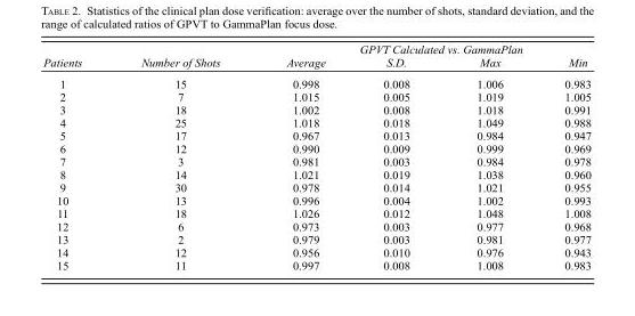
<table><thead><tr><td rowspan="2">Patients</td><td rowspan="2">Number of Shots</td><td rowspan="2">Average</td><td colspan="2">GPVT Calculated vs. GammaPlan</td><td rowspan="2">Min</td></tr><tr><td>S.D.</td><td>Max</td></tr></thead><tbody><tr><td>1</td><td>15</td><td>0.998</td><td>0.008</td><td>1.006</td><td>0.983</td></tr><tr><td>2</td><td>7</td><td>1.015</td><td>0.005</td><td>1.019</td><td>1.005</td></tr><tr><td>3</td><td>18</td><td>1.002</td><td>0.008</td><td>1.018</td><td>0.991</td></tr><tr><td>4</td><td>25</td><td>1.018</td><td>0.018</td><td>1.049</td><td>0.988</td></tr><tr><td>5</td><td>17</td><td>0.967</td><td>0.013</td><td>0.984</td><td>0.947</td></tr><tr><td>6</td><td>12</td><td>0.990</td><td>0.009</td><td>0.999</td><td>0.969</td></tr><tr><td>7</td><td>3</td><td>0.981</td><td>0.003</td><td>0.984</td><td>0.978</td></tr><tr><td>8</td><td>14</td><td>1.021</td><td>0.019</td><td>1.038</td><td>0.960</td></tr><tr><td>9</td><td>30</td><td>0.978</td><td>0.014</td><td>1.021</td><td>0.955</td></tr><tr><td>10</td><td>13</td><td>0.996</td><td>0.004</td><td>1.002</td><td>0.993</td></tr><tr><td>11</td><td>18</td><td>1.026</td><td>0.012</td><td>1.048</td><td>1.008</td></tr><tr><td>12</td><td>6</td><td>0.973</td><td>0.003</td><td>0.977</td><td>0.968</td></tr><tr><td>13</td><td>2</td><td>0.979</td><td>0.003</td><td>0.981</td><td>0.977</td></tr><tr><td>14</td><td>12</td><td>0.956</td><td>0.010</td><td>0.976</td><td>0.943</td></tr><tr><td>15</td><td>11</td><td>0.997</td><td>0.008</td><td>1.008</td><td>0.983</td></tr></tbody></table>